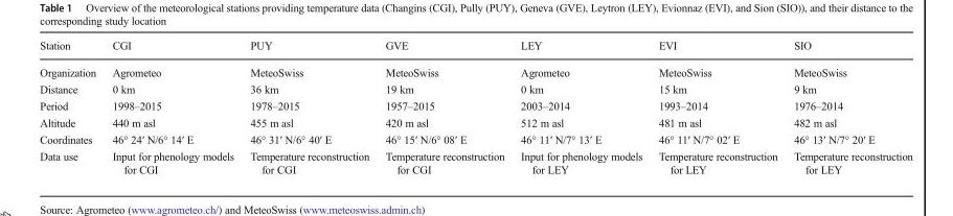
<table><thead><tr><td>Station</td><td>CGI</td><td>PUY</td><td>GVE</td><td>LEY</td><td>EVI</td><td>SIO</td></tr></thead><tbody><tr><td>Organization</td><td>Agrometeo</td><td>MeteoSwiss</td><td>MeteoSwiss</td><td>Agrometeo</td><td>MeteoSwiss</td><td>MeteoSwiss</td></tr><tr><td>Distance</td><td>0 km</td><td>36 km</td><td>19 km</td><td>0 km</td><td>15 km</td><td>9 km</td></tr><tr><td>Period</td><td>1998–2015</td><td>1978–2015</td><td>1957–2015</td><td>2003–2014</td><td>1993–2014</td><td>1976–2014</td></tr><tr><td>Altitude</td><td>440 m asl</td><td>455 m asl</td><td>420 m asl</td><td>512 m asl</td><td>481 m asl</td><td>482 m asl</td></tr><tr><td>Coordinates</td><td>46° 24′ N/6° 14′ E</td><td>46° 31′ N/6° 40′ E</td><td>46° 15′ N/6° 08′ E</td><td>46° 11′ N/7° 13′ E</td><td>46° 11′ N/7° 02′ E</td><td>46° 13′ N/7° 20′ E</td></tr><tr><td>Data use</td><td>Input for phenology models for CGI</td><td>Temperature reconstruction for CGI</td><td>Temperature reconstruction for CGI</td><td>Input for phenology models for LEY</td><td>Temperature reconstruction for LEY</td><td>Temperature reconstruction for LEY</td></tr></tbody></table>